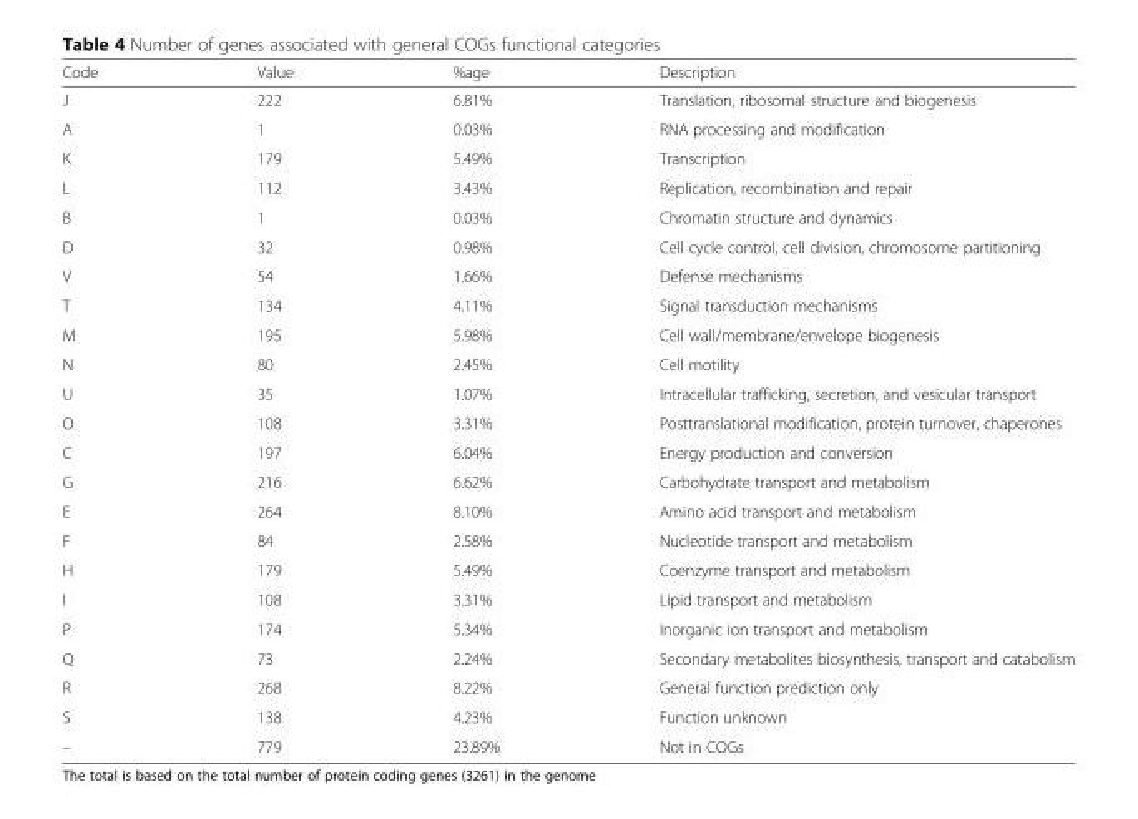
<table><thead><tr><td>Code</td><td>Value</td><td>%age</td><td>Description</td></tr></thead><tbody><tr><td>J</td><td>222</td><td>6.81%</td><td>Translation, ribosomal structure and biogenesis</td></tr><tr><td>A</td><td>1</td><td>0.03%</td><td>RNA processing and modification</td></tr><tr><td>K</td><td>179</td><td>5.49%</td><td>Transcription</td></tr><tr><td>L</td><td>112</td><td>3.43%</td><td>Replication, recombination and repair</td></tr><tr><td>B</td><td>1</td><td>0.03%</td><td>Chromatin structure and dynamics</td></tr><tr><td>D</td><td>32</td><td>0.98%</td><td>Cell cycle control, cell division, chromosome partitioning</td></tr><tr><td>V</td><td>54</td><td>1.66%</td><td>Defense mechanisms</td></tr><tr><td>T</td><td>134</td><td>4.11%</td><td>Signal transduction mechanisms</td></tr><tr><td>M</td><td>195</td><td>5.98%</td><td>Cell wall/membrane/envelope biogenesis</td></tr><tr><td>N</td><td>80</td><td>2.45%</td><td>Cell motility</td></tr><tr><td>U</td><td>35</td><td>1.07%</td><td>Intracellular trafficking, secretion, and vesicular transport</td></tr><tr><td>O</td><td>108</td><td>3.31%</td><td>Posttranslational modification, protein turnover, chaperones</td></tr><tr><td>C</td><td>197</td><td>6.04%</td><td>Energy production and conversion</td></tr><tr><td>G</td><td>216</td><td>6.62%</td><td>Carbohydrate transport and metabolism</td></tr><tr><td>E</td><td>264</td><td>8.10%</td><td>Amino acid transport and metabolism</td></tr><tr><td>F</td><td>84</td><td>2.58%</td><td>Nucleotide transport and metabolism</td></tr><tr><td>H</td><td>179</td><td>5.49%</td><td>Coenzyme transport and metabolism</td></tr><tr><td>I</td><td>108</td><td>3.31%</td><td>Lipid transport and metabolism</td></tr><tr><td>P</td><td>174</td><td>5.34%</td><td>Inorganic ion transport and metabolism</td></tr><tr><td>Q</td><td>73</td><td>2.24%</td><td>Secondary metabolites biosynthesis, transport and catabolism</td></tr><tr><td>R</td><td>268</td><td>8.22%</td><td>General function prediction only</td></tr><tr><td>S</td><td>138</td><td>4.23%</td><td>Function unknown</td></tr><tr><td>–</td><td>779</td><td>23.89%</td><td>Not in COGs</td></tr></tbody></table>